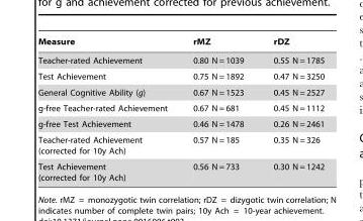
<table><thead><tr><td>Measure</td><td>rMZ</td><td>rDZ</td></tr></thead><tbody><tr><td>Teacher-rated Achievement</td><td>0.80 N = 1039</td><td>0.55 N = 1785</td></tr><tr><td>Test Achievement</td><td>0.75 N = 1892</td><td>0.47 N = 3250</td></tr><tr><td>General Cognitive Ability (g)</td><td>0.67 N = 1523</td><td>0.45 N = 2527</td></tr><tr><td>g-free Teacher-rated Achievement</td><td>0.67 N = 681</td><td>0.45 N = 1112</td></tr><tr><td>g-free Test Achievement</td><td>0.46 N = 1478</td><td>0.26 N = 2461</td></tr><tr><td>Teacher-rated Achievement (corrected for 10y Ach)</td><td>0.57 N = 185</td><td>0.35 N = 326</td></tr><tr><td>Test Achievement (corrected for 10y Ach)</td><td>0.56 N = 733</td><td>0.30 N = 1242</td></tr></tbody></table>